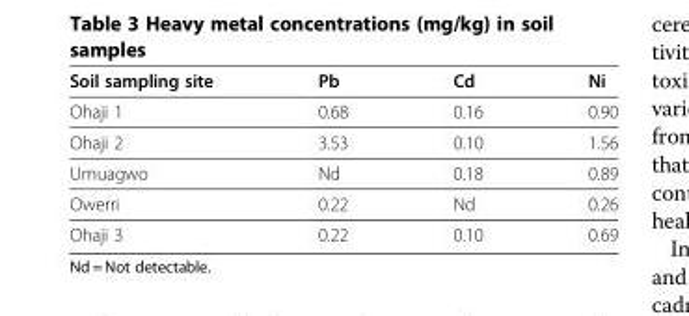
<table><thead><tr><td>Soil sampling site</td><td>Pb</td><td>Cd</td><td>Ni</td></tr></thead><tbody><tr><td>Ohaji 1</td><td>0.68</td><td>0.16</td><td>0.90</td></tr><tr><td>Ohaji 2</td><td>3.53</td><td>0.10</td><td>1.56</td></tr><tr><td>Umuagwo</td><td>Nd</td><td>0.18</td><td>0.89</td></tr><tr><td>Owerri</td><td>0.22</td><td>Nd</td><td>0.26</td></tr><tr><td>Ohaji 3</td><td>0.22</td><td>0.10</td><td>0.69</td></tr></tbody></table>